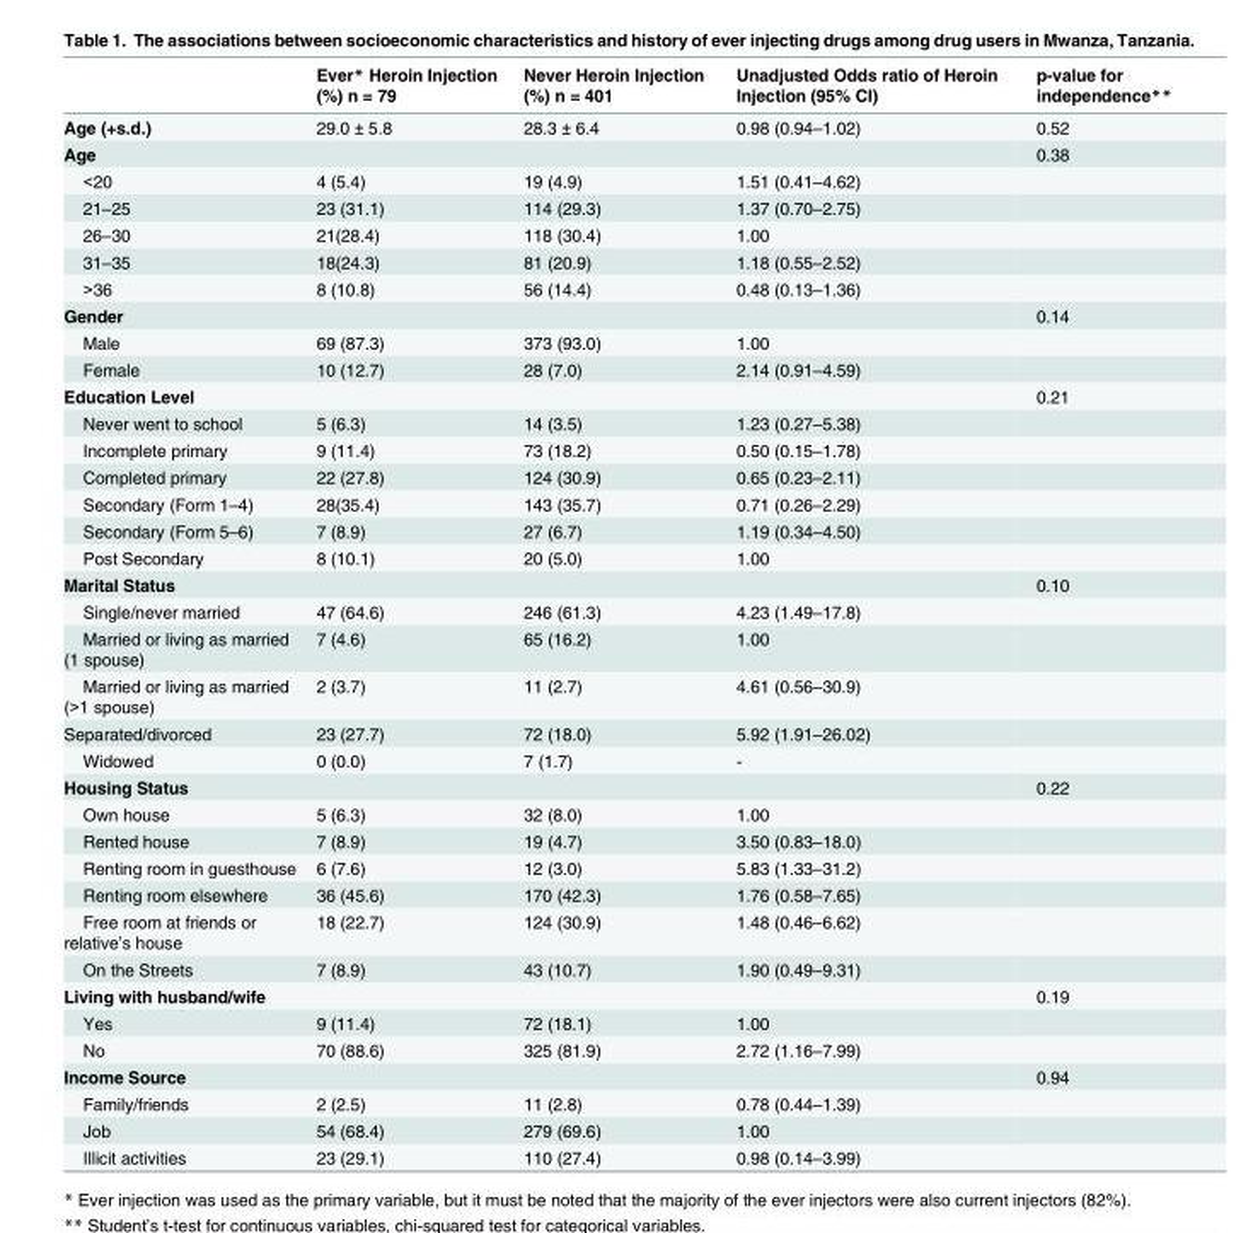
<table><thead><tr><td></td><td>Ever* Heroin Injection (%) n = 79</td><td>Never Heroin Injection (%) n = 401</td><td>Unadjusted Odds ratio of Heroin Injection (95% CI)</td><td>p-value for independence**</td></tr></thead><tbody><tr><td>Age (+s.d.)</td><td>29.0 ± 5.8</td><td>28.3 ± 6.4</td><td>0.98 (0.94–1.02)</td><td>0.52</td></tr><tr><td>Age</td><td></td><td></td><td></td><td>0.38</td></tr><tr><td>&lt;20</td><td>4 (5.4)</td><td>19 (4.9)</td><td>1.51 (0.41–4.62)</td><td></td></tr><tr><td>21–25</td><td>23 (31.1)</td><td>114 (29.3)</td><td>1.37 (0.70–2.75)</td><td></td></tr><tr><td>26–30</td><td>21(28.4)</td><td>118 (30.4)</td><td>1.00</td><td></td></tr><tr><td>31–35</td><td>18(24.3)</td><td>81 (20.9)</td><td>1.18 (0.55–2.52)</td><td></td></tr><tr><td>&gt;36</td><td>8 (10.8)</td><td>56 (14.4)</td><td>0.48 (0.13–1.36)</td><td></td></tr><tr><td>Gender</td><td></td><td></td><td></td><td>0.14</td></tr><tr><td>Male</td><td>69 (87.3)</td><td>373 (93.0)</td><td>1.00</td><td></td></tr><tr><td>Female</td><td>10 (12.7)</td><td>28 (7.0)</td><td>2.14 (0.91–4.59)</td><td></td></tr><tr><td>Education Level</td><td></td><td></td><td></td><td>0.21</td></tr><tr><td>Never went to school</td><td>5 (6.3)</td><td>14 (3.5)</td><td>1.23 (0.27–5.38)</td><td></td></tr><tr><td>Incomplete primary</td><td>9 (11.4)</td><td>73 (18.2)</td><td>0.50 (0.15–1.78)</td><td></td></tr><tr><td>Completed primary</td><td>22 (27.8)</td><td>124 (30.9)</td><td>0.65 (0.23–2.11)</td><td></td></tr><tr><td>Secondary (Form 1–4)</td><td>28(35.4)</td><td>143 (35.7)</td><td>0.71 (0.26–2.29)</td><td></td></tr><tr><td>Secondary (Form 5–6)</td><td>7 (8.9)</td><td>27 (6.7)</td><td>1.19 (0.34–4.50)</td><td></td></tr><tr><td>Post Secondary</td><td>8 (10.1)</td><td>20 (5.0)</td><td>1.00</td><td></td></tr><tr><td>Marital Status</td><td></td><td></td><td></td><td>0.10</td></tr><tr><td>Single/never married</td><td>47 (64.6)</td><td>246 (61.3)</td><td>4.23 (1.49–17.8)</td><td></td></tr><tr><td>Married or living as married (1 spouse)</td><td>7 (4.6)</td><td>65 (16.2)</td><td>1.00</td><td></td></tr><tr><td>Married or living as married (&gt;1 spouse)</td><td>2 (3.7)</td><td>11 (2.7)</td><td>4.61 (0.56–30.9)</td><td></td></tr><tr><td>Separated/divorced</td><td>23 (27.7)</td><td>72 (18.0)</td><td>5.92 (1.91–26.02)</td><td></td></tr><tr><td>Widowed</td><td>0 (0.0)</td><td>7 (1.7)</td><td>-</td><td></td></tr><tr><td>Housing Status</td><td></td><td></td><td></td><td>0.22</td></tr><tr><td>Own house</td><td>5 (6.3)</td><td>32 (8.0)</td><td>1.00</td><td></td></tr><tr><td>Rented house</td><td>7 (8.9)</td><td>19 (4.7)</td><td>3.50 (0.83–18.0)</td><td></td></tr><tr><td>Renting room in guesthouse</td><td>6 (7.6)</td><td>12 (3.0)</td><td>5.83 (1.33–31.2)</td><td></td></tr><tr><td>Renting room elsewhere</td><td>36 (45.6)</td><td>170 (42.3)</td><td>1.76 (0.58–7.65)</td><td></td></tr><tr><td>Free room at friends or relative’s house</td><td>18 (22.7)</td><td>124 (30.9)</td><td>1.48 (0.46–6.62)</td><td></td></tr><tr><td>On the Streets</td><td>7 (8.9)</td><td>43 (10.7)</td><td>1.90 (0.49–9.31)</td><td></td></tr><tr><td>Living with husband/wife</td><td></td><td></td><td></td><td>0.19</td></tr><tr><td>Yes</td><td>9 (11.4)</td><td>72 (18.1)</td><td>1.00</td><td></td></tr><tr><td>No</td><td>70 (88.6)</td><td>325 (81.9)</td><td>2.72 (1.16–7.99)</td><td></td></tr><tr><td>Income Source</td><td></td><td></td><td></td><td>0.94</td></tr><tr><td>Family/friends</td><td>2 (2.5)</td><td>11 (2.8)</td><td>0.78 (0.44–1.39)</td><td></td></tr><tr><td>Job</td><td>54 (68.4)</td><td>279 (69.6)</td><td>1.00</td><td></td></tr><tr><td>Illicit activities</td><td>23 (29.1)</td><td>110 (27.4)</td><td>0.98 (0.14–3.99)</td><td></td></tr></tbody></table>